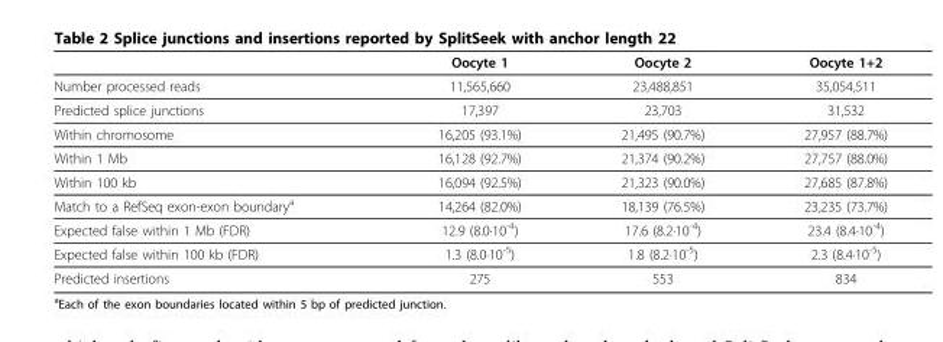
<table><thead><tr><td></td><td>Oocyte 1</td><td>Oocyte 2</td><td>Oocyte 1+2</td></tr></thead><tbody><tr><td>Number processed reads</td><td>11,565,660</td><td>23,488,851</td><td>35,054,511</td></tr><tr><td>Predicted splice junctions</td><td>17,397</td><td>23,703</td><td>31,532</td></tr><tr><td>Within chromosome</td><td>16,205 (93.1%)</td><td>21,495 (90.7%)</td><td>27,957 (88.7%)</td></tr><tr><td>Within 1 Mb</td><td>16,128 (92.7%)</td><td>21,374 (90.2%)</td><td>27,757 (88.0%)</td></tr><tr><td>Within 100 kb</td><td>16,094 (92.5%)</td><td>21,323 (90.0%)</td><td>27,685 (87.8%)</td></tr><tr><td>Match to a RefSeq exon-exon boundary<sup>a</sup></td><td>14,264 (82.0%)</td><td>18,139 (76.5%)</td><td>23,235 (73.7%)</td></tr><tr><td>Expected false within 1 Mb (FDR)</td><td>12.9 (8.0·10<sup>-4</sup>)</td><td>17.6 (8.2·10<sup>-4</sup>)</td><td>23.4 (8.4·10<sup>-4</sup>)</td></tr><tr><td>Expected false within 100 kb (FDR)</td><td>1.3 (8.0·10<sup>-5</sup>)</td><td>1.8 (8.2·10<sup>-5</sup>)</td><td>2.3 (8.4·10<sup>-5</sup>)</td></tr><tr><td>Predicted insertions</td><td>275</td><td>553</td><td>834</td></tr></tbody></table>